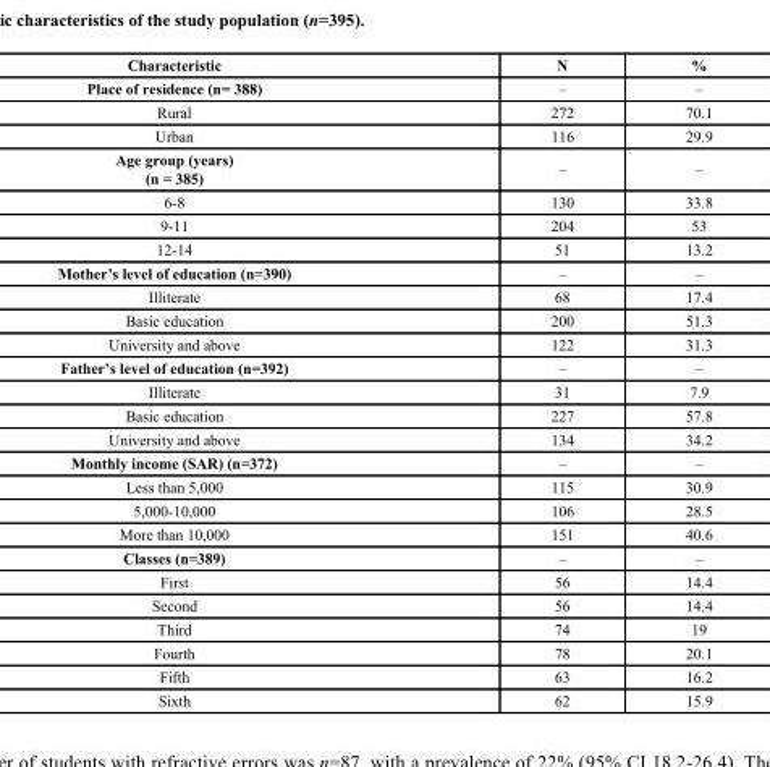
<table><thead><tr><td>Characteristic</td><td>N</td><td>%</td></tr></thead><tbody><tr><td>Place of residence (n= 388)</td><td>–</td><td>–</td></tr><tr><td>Rural</td><td>272</td><td>70.1</td></tr><tr><td>Urban</td><td>116</td><td>29.9</td></tr><tr><td>Age group (years) (n = 385)</td><td>–</td><td>–</td></tr><tr><td>6-8</td><td>130</td><td>33.8</td></tr><tr><td>9-11</td><td>204</td><td>53</td></tr><tr><td>12-14</td><td>51</td><td>13.2</td></tr><tr><td>Mother’s level of education (n=390)</td><td>–</td><td>–</td></tr><tr><td>Illiterate</td><td>68</td><td>17.4</td></tr><tr><td>Basic education</td><td>200</td><td>51.3</td></tr><tr><td>University and above</td><td>122</td><td>31.3</td></tr><tr><td>Father’s level of education (n=392)</td><td>–</td><td>–</td></tr><tr><td>Illiterate</td><td>31</td><td>7.9</td></tr><tr><td>Basic education</td><td>227</td><td>57.8</td></tr><tr><td>University and above</td><td>134</td><td>34.2</td></tr><tr><td>Monthly income (SAR) (n=372)</td><td>–</td><td>–</td></tr><tr><td>Less than 5,000</td><td>115</td><td>30.9</td></tr><tr><td>5,000-10,000</td><td>106</td><td>28.5</td></tr><tr><td>More than 10,000</td><td>151</td><td>40.6</td></tr><tr><td>Classes (n=389)</td><td>–</td><td>–</td></tr><tr><td>First</td><td>56</td><td>14.4</td></tr><tr><td>Second</td><td>56</td><td>14.4</td></tr><tr><td>Third</td><td>74</td><td>19</td></tr><tr><td>Fourth</td><td>78</td><td>20.1</td></tr><tr><td>Fifth</td><td>63</td><td>16.2</td></tr><tr><td>Sixth</td><td>62</td><td>15.9</td></tr></tbody></table>